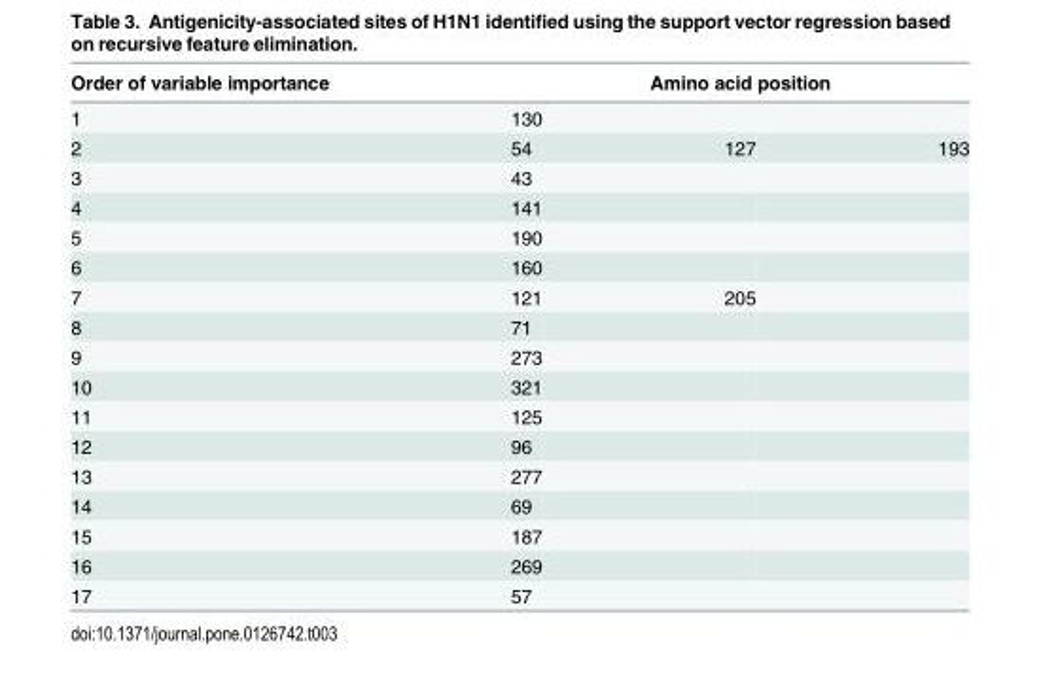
<table><thead><tr><td rowspan="2">Order of variable importance 1</td><td colspan="3">Amino acid position</td></tr><tr><td>130</td><td></td><td></td></tr></thead><tbody><tr><td>2</td><td>54</td><td>127</td><td>193</td></tr><tr><td>3</td><td>43</td><td></td><td></td></tr><tr><td>4</td><td>141</td><td></td><td></td></tr><tr><td>5</td><td>190</td><td></td><td></td></tr><tr><td>6</td><td>160</td><td></td><td></td></tr><tr><td>7</td><td>121</td><td>205</td><td></td></tr><tr><td>8</td><td>71</td><td></td><td></td></tr><tr><td>9</td><td>273</td><td></td><td></td></tr><tr><td>10</td><td>321</td><td></td><td></td></tr><tr><td>11</td><td>125</td><td></td><td></td></tr><tr><td>12</td><td>96</td><td></td><td></td></tr><tr><td>13</td><td>277</td><td></td><td></td></tr><tr><td>14</td><td>69</td><td></td><td></td></tr><tr><td>15</td><td>187</td><td></td><td></td></tr><tr><td>16</td><td>269</td><td></td><td></td></tr><tr><td>17</td><td>57</td><td></td><td></td></tr></tbody></table>